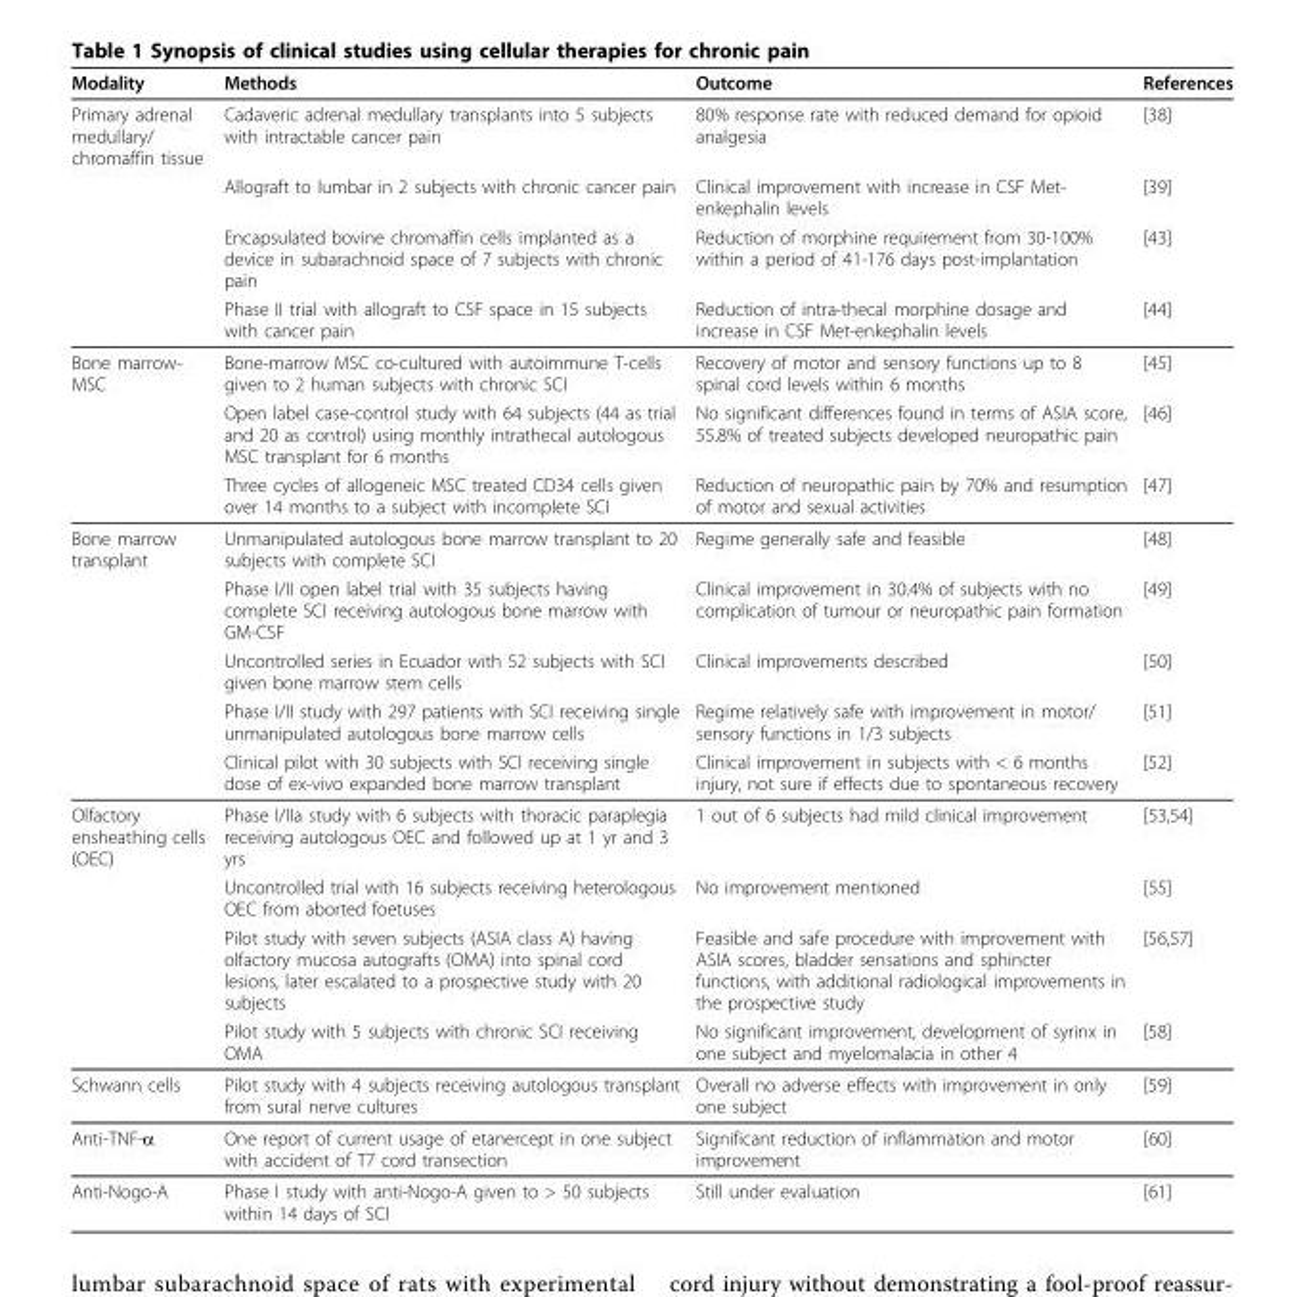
<table><thead><tr><td>Modality</td><td>Methods</td><td>Outcome</td><td>References</td></tr></thead><tbody><tr><td rowspan="4">Primary adrenal medullary/ chromaffin tissue</td><td>Cadaveric adrenal medullary transplants into 5 subjects with intractable cancer pain</td><td>80% response rate with reduced demand for opioid analgesia</td><td>[38]</td></tr><tr><td>Allograft to lumbar in 2 subjects with chronic cancer pain</td><td>Clinical improvement with increase in CSF Met- enkephalin levels</td><td>[39]</td></tr><tr><td>Encapsulated bovine chromaffin cells implanted as a device in subarachnoid space of 7 subjects with chronic pain</td><td>Reduction of morphine requirement from 30-100% within a period of 41-176 days post-implantation</td><td>[43]</td></tr><tr><td>Phase II trial with allograft to CSF space in 15 subjects with cancer pain</td><td>Reduction of intra-thecal morphine dosage and increase in CSF Met-enkephalin levels</td><td>[44]</td></tr><tr><td rowspan="3">Bone marrow- MSC</td><td>Bone-marrow MSC co-cultured with autoimmune T-cells given to 2 human subjects with chronic SCI</td><td>Recovery of motor and sensory functions up to 8 spinal cord levels within 6 months</td><td>[45]</td></tr><tr><td>Open label case-control study with 64 subjects (44 as trial and 20 as control) using monthly intrathecal autologous MSC transplant for 6 months</td><td>No significant differences found in terms of ASIA score, 55.8% of treated subjects developed neuropathic pain</td><td>[46]</td></tr><tr><td>Three cycles of allogeneic MSC treated CD34 cells given over 14 months to a subject with incomplete SCI</td><td>Reduction of neuropathic pain by 70% and resumption of motor and sexual activities</td><td>[47]</td></tr><tr><td rowspan="5">Bone marrow transplant</td><td>Unmanipulated autologous bone marrow transplant to 20 subjects with complete SCI</td><td>Regime generally safe and feasible</td><td>[48]</td></tr><tr><td>Phase I/II open label trial with 35 subjects having complete SCI receiving autologous bone marrow with GM-CSF</td><td>Clinical improvement in 30.4% of subjects with no complication of tumour or neuropathic pain formation</td><td>[49]</td></tr><tr><td>Uncontrolled series in Ecuador with 52 subjects with SCI given bone marrow stem cells</td><td>Clinical improvements described</td><td>[50]</td></tr><tr><td>Phase I/II study with 297 patients with SCI receiving single unmanipulated autologous bone marrow cells</td><td>Regime relatively safe with improvement in motor/ sensory functions in 1/3 subjects</td><td>[51]</td></tr><tr><td>Clinical pilot with 30 subjects with SCI receiving single dose of ex-vivo expanded bone marrow transplant</td><td>Clinical improvement in subjects with &lt; 6 months injury, not sure if effects due to spontaneous recovery</td><td>[52]</td></tr><tr><td rowspan="4">Olfactory ensheathing cells (OEC)</td><td>Phase I/IIa study with 6 subjects with thoracic paraplegia receiving autologous OEC and followed up at 1 yr and 3 yrs</td><td>1 out of 6 subjects had mild clinical improvement</td><td>[53,54]</td></tr><tr><td>Uncontrolled trial with 16 subjects receiving heterologous OEC from aborted foetuses</td><td>No improvement mentioned</td><td>[55]</td></tr><tr><td>Pilot study with seven subjects (ASIA class A) having olfactory mucosa autografts (OMA) into spinal cord lesions, later escalated to a prospective study with 20 subjects</td><td>Feasible and safe procedure with improvement with ASIA scores, bladder sensations and sphincter functions, with additional radiological improvements in the prospective study</td><td>[56,57]</td></tr><tr><td>Pilot study with 5 subjects with chronic SCI receiving OMA</td><td>No significant improvement, development of syrinx in one subject and myelomalacia in other 4</td><td>[58]</td></tr><tr><td>Schwann cells</td><td>Pilot study with 4 subjects receiving autologous transplant from sural nerve cultures</td><td>Overall no adverse effects with improvement in only one subject</td><td>[59]</td></tr><tr><td>Anti-TNF-α</td><td>One report of current usage of etanercept in one subject with accident of T7 cord transection</td><td>Significant reduction of inflammation and motor improvement</td><td>[60]</td></tr><tr><td>Anti-Nogo-A</td><td>Phase I study with anti-Nogo-A given to &gt; 50 subjects within 14 days of SCI</td><td>Still under evaluation</td><td>[61]</td></tr></tbody></table>